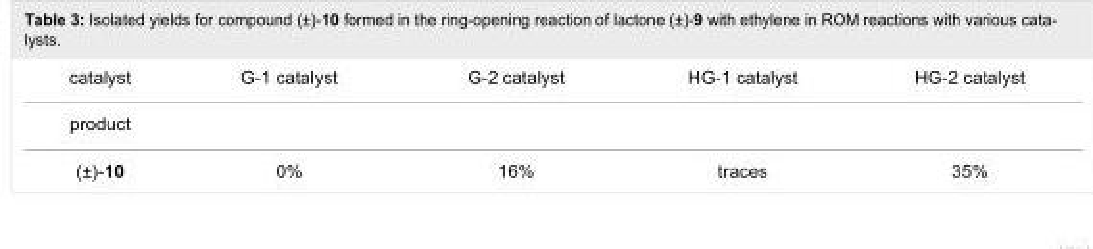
<table><tbody><tr><td>catalyst</td><td>G-1 catalyst</td><td>G-2 catalyst</td><td>HG-1 catalyst</td><td>HG-2 catalyst</td></tr><tr><td colspan="5">product</td></tr><tr><td>(±)-10</td><td>0%</td><td>16%</td><td>traces</td><td>35%</td></tr></tbody></table>